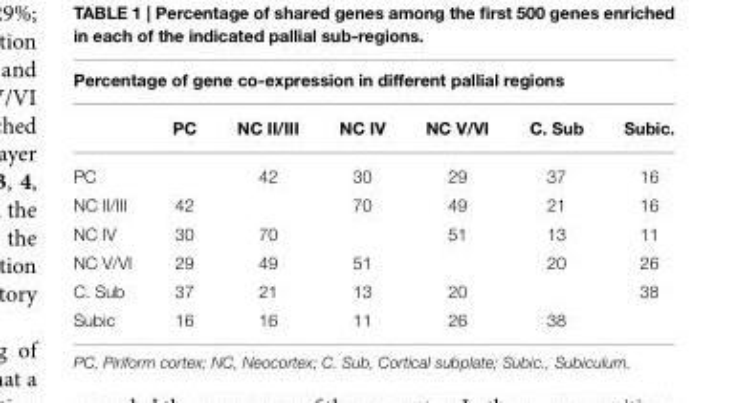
<table><thead><tr><td colspan="7">Percentage of gene co-expression in different pallial regions</td></tr><tr><td></td><td>PC</td><td>NC II/III</td><td>NC IV</td><td>NC V/VI</td><td>C. Sub</td><td>Subic.</td></tr></thead><tbody><tr><td>PC</td><td></td><td>42</td><td>30</td><td>29</td><td>37</td><td>16</td></tr><tr><td>NC II/III</td><td>42</td><td></td><td>70</td><td>49</td><td>21</td><td>16</td></tr><tr><td>NC IV</td><td>30</td><td>70</td><td></td><td>51</td><td>13</td><td>11</td></tr><tr><td>NC V/VI</td><td>29</td><td>49</td><td>51</td><td></td><td>20</td><td>26</td></tr><tr><td>C. Sub</td><td>37</td><td>21</td><td>13</td><td>20</td><td></td><td>38</td></tr><tr><td>Subic</td><td>16</td><td>16</td><td>11</td><td>26</td><td>38</td><td></td></tr></tbody></table>